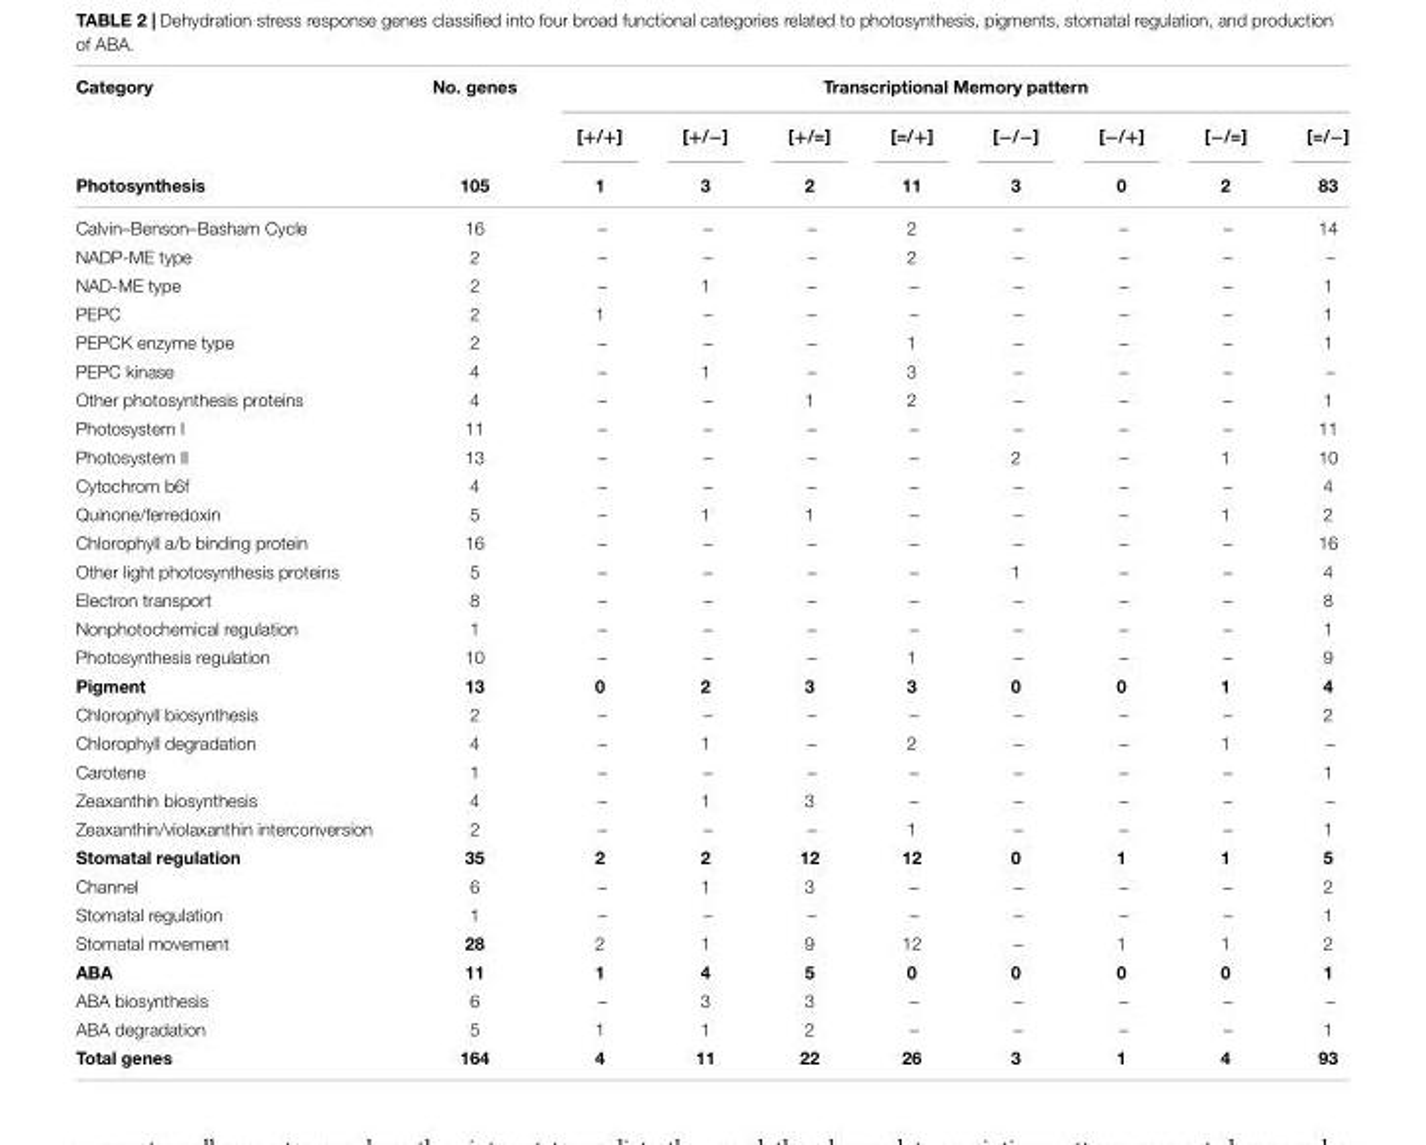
<table><thead><tr><td rowspan="3">Category Photosynthesis</td><td rowspan="3">No. genes 105</td><td colspan="8">Transcriptional Memory pattern</td></tr><tr><td rowspan="2">[+/+] 1</td><td rowspan="2">[+/−] 3</td><td rowspan="2">[+/=] 2</td><td rowspan="2">[=/+] 11</td><td rowspan="2">[−/−] 3</td><td rowspan="2">[−/+] 0</td><td rowspan="2">[−/=] 2</td><td rowspan="2">[=/−] 83</td></tr><tr></tr></thead><tbody><tr><td>Calvin–Benson–Basham Cycle</td><td>16</td><td>–</td><td>–</td><td>–</td><td>2</td><td>–</td><td>–</td><td>–</td><td>14</td></tr><tr><td>NADP-ME type</td><td>2</td><td>–</td><td>–</td><td>–</td><td>2</td><td>–</td><td>–</td><td>–</td><td>–</td></tr><tr><td>NAD-ME type</td><td>2</td><td>–</td><td>1</td><td>–</td><td>–</td><td>–</td><td>–</td><td>–</td><td>1</td></tr><tr><td>PEPC</td><td>2</td><td>1</td><td>–</td><td>–</td><td>–</td><td>–</td><td>–</td><td>–</td><td>1</td></tr><tr><td>PEPCK enzyme type</td><td>2</td><td>–</td><td>–</td><td>–</td><td>1</td><td>–</td><td>–</td><td>–</td><td>1</td></tr><tr><td>PEPC kinase</td><td>4</td><td>–</td><td>1</td><td>–</td><td>3</td><td>–</td><td>–</td><td>–</td><td>–</td></tr><tr><td>Other photosynthesis proteins</td><td>4</td><td>–</td><td>–</td><td>1</td><td>2</td><td>–</td><td>–</td><td>–</td><td>1</td></tr><tr><td>Photosystem I</td><td>11</td><td>–</td><td>–</td><td>–</td><td>–</td><td>–</td><td>–</td><td>–</td><td>11</td></tr><tr><td>Photosystem II</td><td>13</td><td>–</td><td>–</td><td>–</td><td>–</td><td>2</td><td>–</td><td>1</td><td>10</td></tr><tr><td>Cytochrom b6f</td><td>4</td><td>–</td><td>–</td><td>–</td><td>–</td><td>–</td><td>–</td><td>–</td><td>4</td></tr><tr><td>Quinone/ferredoxin</td><td>5</td><td>–</td><td>1</td><td>1</td><td>–</td><td>–</td><td>–</td><td>1</td><td>2</td></tr><tr><td>Chlorophyll a/b binding protein</td><td>16</td><td>–</td><td>–</td><td>–</td><td>–</td><td>–</td><td>–</td><td>–</td><td>16</td></tr><tr><td>Other light photosynthesis proteins</td><td>5</td><td>–</td><td>–</td><td>–</td><td>–</td><td>1</td><td>–</td><td>–</td><td>4</td></tr><tr><td>Electron transport</td><td>8</td><td>–</td><td>–</td><td>–</td><td>–</td><td>–</td><td>–</td><td>–</td><td>8</td></tr><tr><td>Nonphotochemical regulation</td><td>1</td><td>–</td><td>–</td><td>–</td><td>–</td><td>–</td><td>–</td><td>–</td><td>1</td></tr><tr><td>Photosynthesis regulation</td><td>10</td><td>–</td><td>–</td><td>–</td><td>1</td><td>–</td><td>–</td><td>–</td><td>9</td></tr><tr><td>Pigment</td><td>13</td><td>0</td><td>2</td><td>3</td><td>3</td><td>0</td><td>0</td><td>1</td><td>4</td></tr><tr><td>Chlorophyll biosynthesis</td><td>2</td><td>–</td><td>–</td><td>–</td><td>–</td><td>–</td><td>–</td><td>–</td><td>2</td></tr><tr><td>Chlorophyll degradation</td><td>4</td><td>–</td><td>1</td><td>–</td><td>2</td><td>–</td><td>–</td><td>1</td><td>–</td></tr><tr><td>Carotene</td><td>1</td><td>–</td><td>–</td><td>–</td><td>–</td><td>–</td><td>–</td><td>–</td><td>1</td></tr><tr><td>Zeaxanthin biosynthesis</td><td>4</td><td>–</td><td>1</td><td>3</td><td>–</td><td>–</td><td>–</td><td>–</td><td>–</td></tr><tr><td>Zeaxanthin/violaxanthin interconversion</td><td>2</td><td>–</td><td>–</td><td>–</td><td>1</td><td>–</td><td>–</td><td>–</td><td>1</td></tr><tr><td>Stomatal regulation</td><td>35</td><td>2</td><td>2</td><td>12</td><td>12</td><td>0</td><td>1</td><td>1</td><td>5</td></tr><tr><td>Channel</td><td>6</td><td>–</td><td>1</td><td>3</td><td>–</td><td>–</td><td>–</td><td>–</td><td>2</td></tr><tr><td>Stomatal regulation</td><td>1</td><td>–</td><td>–</td><td>–</td><td>–</td><td>–</td><td>–</td><td>–</td><td>1</td></tr><tr><td>Stomatal movement</td><td>28</td><td>2</td><td>1</td><td>9</td><td>12</td><td>–</td><td>1</td><td>1</td><td>2</td></tr><tr><td>ABA</td><td>11</td><td>1</td><td>4</td><td>5</td><td>0</td><td>0</td><td>0</td><td>0</td><td>1</td></tr><tr><td>ABA biosynthesis</td><td>6</td><td>–</td><td>3</td><td>3</td><td>–</td><td>–</td><td>–</td><td>–</td><td>–</td></tr><tr><td>ABA degradation</td><td>5</td><td>1</td><td>1</td><td>2</td><td>–</td><td>–</td><td>–</td><td>–</td><td>1</td></tr><tr><td>Total genes</td><td>164</td><td>4</td><td>11</td><td>22</td><td>26</td><td>3</td><td>1</td><td>4</td><td>93</td></tr></tbody></table>